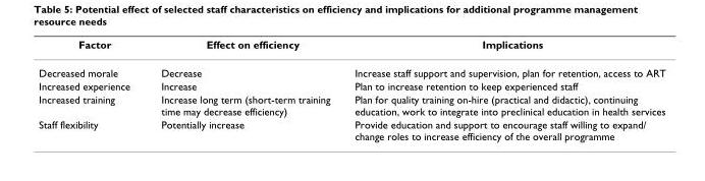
<table><thead><tr><td>Factor</td><td>Effect on efficiency</td><td>Implications</td></tr></thead><tbody><tr><td>Decreased morale</td><td>Decrease</td><td>Increase staff support and supervision, plan for retention, access to ART</td></tr><tr><td>Increased experience</td><td>Increase</td><td>Plan to increase retention to keep experienced staff</td></tr><tr><td>Increased training</td><td>Increase long term (short-term training time may decrease efficiency)</td><td>Plan for quality training on-hire (practical and didactic), continuing education, work to integrate into preclinical education in health services</td></tr><tr><td>Staff flexibility</td><td>Potentially increase</td><td>Provide education and support to encourage staff willing to expand/ change roles to increase efficiency of the overall programme</td></tr></tbody></table>